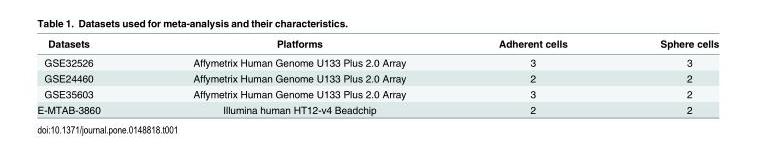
<table><thead><tr><td>Datasets</td><td>Platforms</td><td>Adherent cells</td><td>Sphere cells</td></tr></thead><tbody><tr><td>GSE32526</td><td>Affymetrix Human Genome U133 Plus 2.0 Array</td><td>3</td><td>3</td></tr><tr><td>GSE24460</td><td>Affymetrix Human Genome U133 Plus 2.0 Array</td><td>2</td><td>2</td></tr><tr><td>GSE35603</td><td>Affymetrix Human Genome U133 Plus 2.0 Array</td><td>3</td><td>2</td></tr><tr><td>E-MTAB-3860</td><td>Illumina human HT12-v4 Beadchip</td><td>2</td><td>2</td></tr></tbody></table>